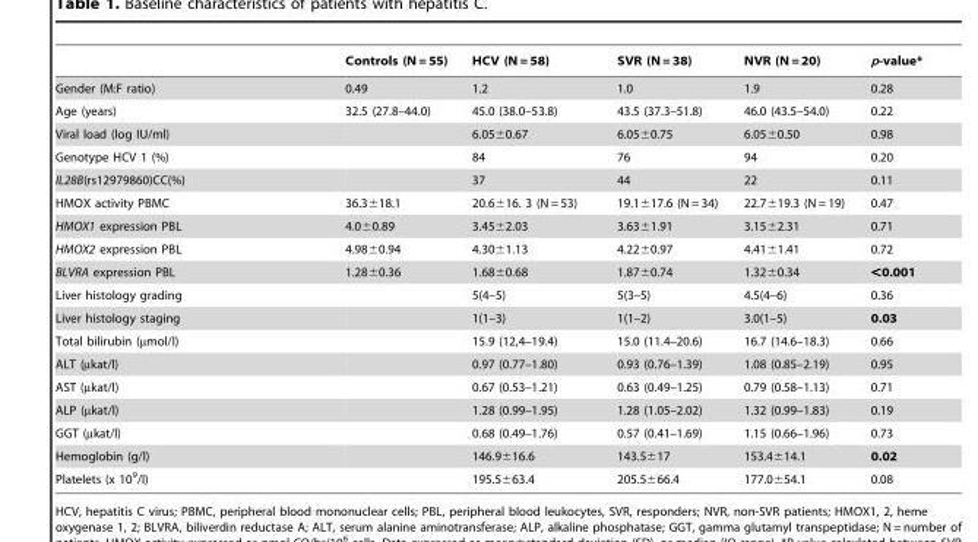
<table><thead><tr><td></td><td>Controls (N = 55)</td><td>HCV (N = 58)</td><td>SVR (N = 38)</td><td>NVR (N = 20)</td><td>p-value*</td></tr></thead><tbody><tr><td>Gender (M:F ratio)</td><td>0.49</td><td>1.2</td><td>1.0</td><td>1.9</td><td>0.28</td></tr><tr><td>Age (years)</td><td>32.5 (27.8–44.0)</td><td>45.0 (38.0–53.8)</td><td>43.5 (37.3–51.8)</td><td>46.0 (43.5–54.0)</td><td>0.22</td></tr><tr><td>Viral load (log IU/ml)</td><td></td><td>6.05±0.67</td><td>6.05±0.75</td><td>6.05±0.50</td><td>0.98</td></tr><tr><td>Genotype HCV 1 (%)</td><td></td><td>84</td><td>76</td><td>94</td><td>0.20</td></tr><tr><td>IL28B(rs12979860)CC(%)</td><td></td><td>37</td><td>44</td><td>22</td><td>0.11</td></tr><tr><td>HMOX activity PBMC</td><td>36.3±18.1</td><td>20.6±16. 3 (N = 53)</td><td>19.1±17.6 (N = 34)</td><td>22.7±19.3 (N = 19)</td><td>0.47</td></tr><tr><td>HMOX1 expression PBL</td><td>4.0±0.89</td><td>3.45±2.03</td><td>3.63±1.91</td><td>3.15±2.31</td><td>0.71</td></tr><tr><td>HMOX2 expression PBL</td><td>4.98±0.94</td><td>4.30±1.13</td><td>4.22±0.97</td><td>4.41±1.41</td><td>0.72</td></tr><tr><td>BLVRA expression PBL</td><td>1.28±0.36</td><td>1.68±0.68</td><td>1.87±0.74</td><td>1.32±0.34</td><td>&lt;0.001</td></tr><tr><td>Liver histology grading</td><td></td><td>5(4–5)</td><td>5(3–5)</td><td>4.5(4–6)</td><td>0.36</td></tr><tr><td>Liver histology staging</td><td></td><td>1(1–3)</td><td>1(1–2)</td><td>3.0(1–5)</td><td>0.03</td></tr><tr><td>Total bilirubin (µmol/l)</td><td></td><td>15.9 (12,4–19.4)</td><td>15.0 (11.4–20.6)</td><td>16.7 (14.6–18.3)</td><td>0.66</td></tr><tr><td>ALT (µkat/l)</td><td></td><td>0.97 (0.77–1.80)</td><td>0.93 (0.76–1.39)</td><td>1.08 (0.85–2.19)</td><td>0.95</td></tr><tr><td>AST (µkat/l)</td><td></td><td>0.67 (0.53–1.21)</td><td>0.63 (0.49–1.25)</td><td>0.79 (0.58–1.13)</td><td>0.71</td></tr><tr><td>ALP (µkat/l)</td><td></td><td>1.28 (0.99–1.95)</td><td>1.28 (1.05–2.02)</td><td>1.32 (0.99–1.83)</td><td>0.19</td></tr><tr><td>GGT (µkat/l)</td><td></td><td>0.68 (0.49–1.76)</td><td>0.57 (0.41–1.69)</td><td>1.15 (0.66–1.96)</td><td>0.73</td></tr><tr><td>Hemoglobin (g/l)</td><td></td><td>146.9±16.6</td><td>143.5±17</td><td>153.4±14.1</td><td>0.02</td></tr><tr><td>Platelets (x 10<sup>9</sup>/l)</td><td></td><td>195.5±63.4</td><td>205.5±66.4</td><td>177.0±54.1</td><td>0.08</td></tr></tbody></table>